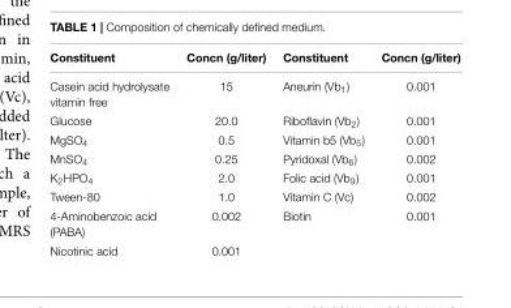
<table><thead><tr><td>Constituent</td><td>Concn (g/liter)</td><td>Constituent</td><td>Concn (g/liter)</td></tr></thead><tbody><tr><td>Casein acid hydrolysate vitamin free</td><td>15</td><td>Aneurin (Vb<sub>1</sub>)</td><td>0.001</td></tr><tr><td>Glucose</td><td>20.0</td><td>Riboflavin (Vb<sub>2</sub>)</td><td>0.001</td></tr><tr><td>MgSO<sub>4</sub></td><td>0.5</td><td>Vitamin b5 (Vb<sub>5</sub>)</td><td>0.001</td></tr><tr><td>MnSO<sub>4</sub></td><td>0.25</td><td>Pyridoxal (Vb<sub>6</sub>)</td><td>0.002</td></tr><tr><td>K<sub>2</sub>HPO<sub>4</sub></td><td>2.0</td><td>Folic acid (Vb<sub>9</sub>)</td><td>0.001</td></tr><tr><td>Tween-80</td><td>1.0</td><td>Vitamin C (Vc)</td><td>0.002</td></tr><tr><td>4-Aminobenzoic acid (PABA)</td><td>0.002</td><td>Biotin</td><td>0.001</td></tr><tr><td>Nicotinic acid</td><td>0.001</td><td></td><td></td></tr></tbody></table>